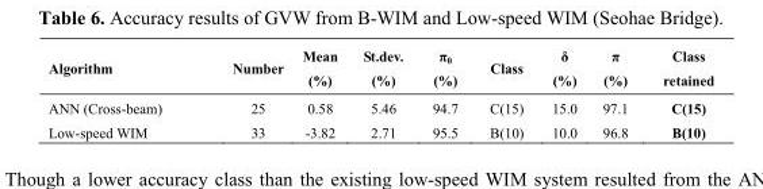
<table><thead><tr><td>Algorithm</td><td>Number</td><td>Mean (%)</td><td>St.dev. (%)</td><td>π<sub>0</sub> (%)</td><td>Class</td><td>δ (%)</td><td>π (%)</td><td>Class retained</td></tr></thead><tbody><tr><td>ANN (Cross-beam)</td><td>25</td><td>0.58</td><td>5.46</td><td>94.7</td><td>C(15)</td><td>15.0</td><td>97.1</td><td>C(15)</td></tr><tr><td>Low-speed WIM</td><td>33</td><td>-3.82</td><td>2.71</td><td>95.5</td><td>B(10)</td><td>10.0</td><td>96.8</td><td>B(10)</td></tr></tbody></table>